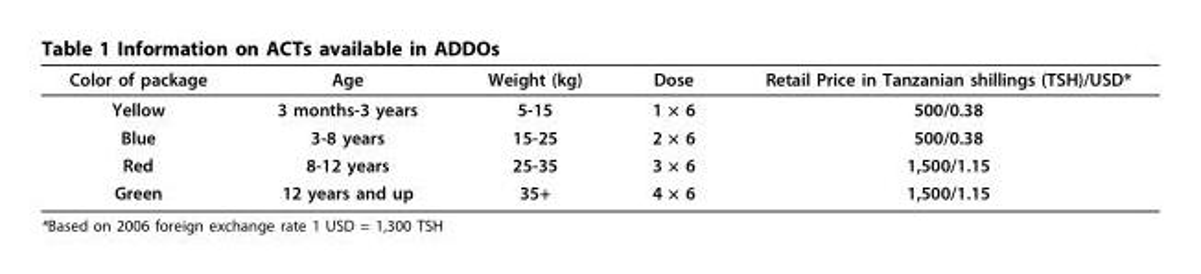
<table><thead><tr><td>Color of package</td><td>Age</td><td>Weight (kg)</td><td>Dose</td><td>Retail Price in Tanzanian shillings (TSH)/USD*</td></tr></thead><tbody><tr><td>Yellow</td><td>3 months-3 years</td><td>5-15</td><td>1 × 6</td><td>500/0.38</td></tr><tr><td>Blue</td><td>3-8 years</td><td>15-25</td><td>2 × 6</td><td>500/0.38</td></tr><tr><td>Red</td><td>8-12 years</td><td>25-35</td><td>3 × 6</td><td>1,500/1.15</td></tr><tr><td>Green</td><td>12 years and up</td><td>35+</td><td>4 × 6</td><td>1,500/1.15</td></tr></tbody></table>